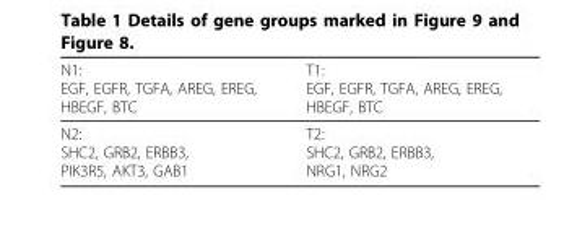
<table><thead><tr><td>N1: EGF, EGFR, TGFA, AREG, EREG, HBEGF, BTC</td><td>T1: EGF, EGFR, TGFA, AREG, EREG, HBEGF, BTC</td></tr></thead><tbody><tr><td>N2: SHC2, GRB2, ERBB3, PIK3R5, AKT3, GAB1</td><td>T2: SHC2, GRB2, ERBB3, NRG1, NRG2</td></tr></tbody></table>